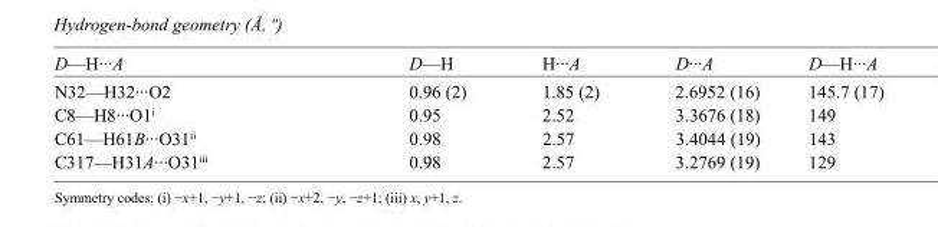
<table><tbody><tr><td>D—H···A</td><td>D—H</td><td>H···A</td><td>D···A</td><td>D—H···A</td></tr><tr><td>N32—H32···O2</td><td>0.96 (2)</td><td>1.85 (2)</td><td>2.6952 (16)</td><td>145.7 (17)</td></tr><tr><td>C8—H8···O1<sup>i</sup></td><td>0.95</td><td>2.52</td><td>3.3676 (18)</td><td>149</td></tr><tr><td>C61—H61B···O31<sup>ii</sup></td><td>0.98</td><td>2.57</td><td>3.4044 (19)</td><td>143</td></tr><tr><td>C317—H31A···O31<sup>iii</sup></td><td>0.98</td><td>2.57</td><td>3.2769 (19)</td><td>129</td></tr></tbody></table>